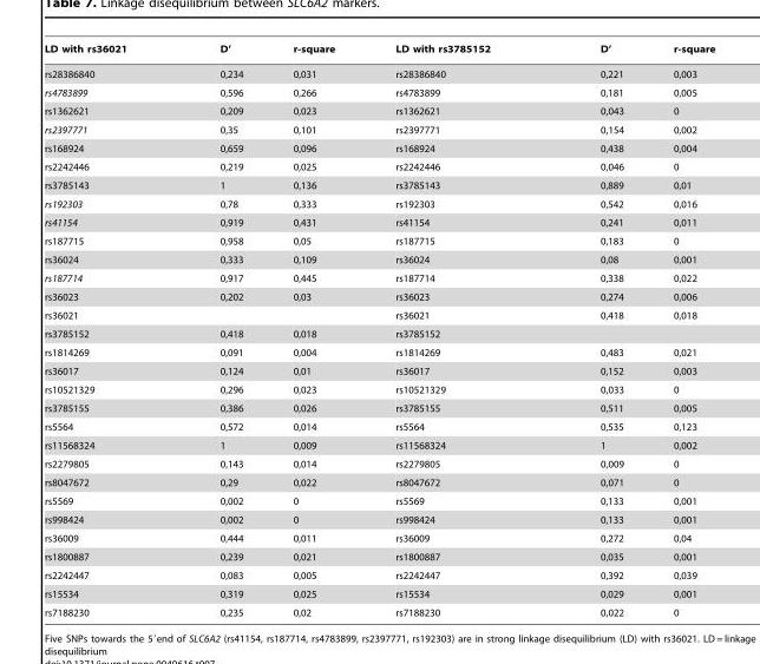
<table><thead><tr><td>LD with rs36021</td><td>D’</td><td>r-square</td><td>LD with rs3785152</td><td>D’</td><td>r-square</td></tr></thead><tbody><tr><td>rs28386840</td><td>0,234</td><td>0,031</td><td>rs28386840</td><td>0,221</td><td>0,003</td></tr><tr><td>rs4783899</td><td>0,596</td><td>0,266</td><td>rs4783899</td><td>0,181</td><td>0,005</td></tr><tr><td>rs1362621</td><td>0,209</td><td>0,023</td><td>rs1362621</td><td>0,043</td><td>0</td></tr><tr><td>rs2397771</td><td>0,35</td><td>0,101</td><td>rs2397771</td><td>0,154</td><td>0,002</td></tr><tr><td>rs168924</td><td>0,659</td><td>0,096</td><td>rs168924</td><td>0,438</td><td>0,004</td></tr><tr><td>rs2242446</td><td>0,219</td><td>0,025</td><td>rs2242446</td><td>0,046</td><td>0</td></tr><tr><td>rs3785143</td><td>1</td><td>0,136</td><td>rs3785143</td><td>0,889</td><td>0,01</td></tr><tr><td>rs192303</td><td>0,78</td><td>0,333</td><td>rs192303</td><td>0,542</td><td>0,016</td></tr><tr><td>rs41154</td><td>0,919</td><td>0,431</td><td>rs41154</td><td>0,241</td><td>0,011</td></tr><tr><td>rs187715</td><td>0,958</td><td>0,05</td><td>rs187715</td><td>0,183</td><td>0</td></tr><tr><td>rs36024</td><td>0,333</td><td>0,109</td><td>rs36024</td><td>0,08</td><td>0,001</td></tr><tr><td>rs187714</td><td>0,917</td><td>0,445</td><td>rs187714</td><td>0,338</td><td>0,022</td></tr><tr><td>rs36023</td><td>0,202</td><td>0,03</td><td>rs36023</td><td>0,274</td><td>0,006</td></tr><tr><td>rs36021</td><td></td><td></td><td>rs36021</td><td>0,418</td><td>0,018</td></tr><tr><td>rs3785152</td><td>0,418</td><td>0,018</td><td>rs3785152</td><td></td><td></td></tr><tr><td>rs1814269</td><td>0,091</td><td>0,004</td><td>rs1814269</td><td>0,483</td><td>0,021</td></tr><tr><td>rs36017</td><td>0,124</td><td>0,01</td><td>rs36017</td><td>0,152</td><td>0,003</td></tr><tr><td>rs10521329</td><td>0,296</td><td>0,023</td><td>rs10521329</td><td>0,033</td><td>0</td></tr><tr><td>rs3785155</td><td>0,386</td><td>0,026</td><td>rs3785155</td><td>0,511</td><td>0,005</td></tr><tr><td>rs5564</td><td>0,572</td><td>0,014</td><td>rs5564</td><td>0,535</td><td>0,123</td></tr><tr><td>rs11568324</td><td>1</td><td>0,009</td><td>rs11568324</td><td>1</td><td>0,002</td></tr><tr><td>rs2279805</td><td>0,143</td><td>0,014</td><td>rs2279805</td><td>0,009</td><td>0</td></tr><tr><td>rs8047672</td><td>0,29</td><td>0,022</td><td>rs8047672</td><td>0,071</td><td>0</td></tr><tr><td>rs5569</td><td>0,002</td><td>0</td><td>rs5569</td><td>0,133</td><td>0,001</td></tr><tr><td>rs998424</td><td>0,002</td><td>0</td><td>rs998424</td><td>0,133</td><td>0,001</td></tr><tr><td>rs36009</td><td>0,444</td><td>0,011</td><td>rs36009</td><td>0,272</td><td>0,04</td></tr><tr><td>rs1800887</td><td>0,239</td><td>0,021</td><td>rs1800887</td><td>0,035</td><td>0,001</td></tr><tr><td>rs2242447</td><td>0,083</td><td>0,005</td><td>rs2242447</td><td>0,392</td><td>0,039</td></tr><tr><td>rs15534</td><td>0,319</td><td>0,025</td><td>rs15534</td><td>0,029</td><td>0,001</td></tr><tr><td>rs7188230</td><td>0,235</td><td>0,02</td><td>rs7188230</td><td>0,022</td><td>0</td></tr></tbody></table>